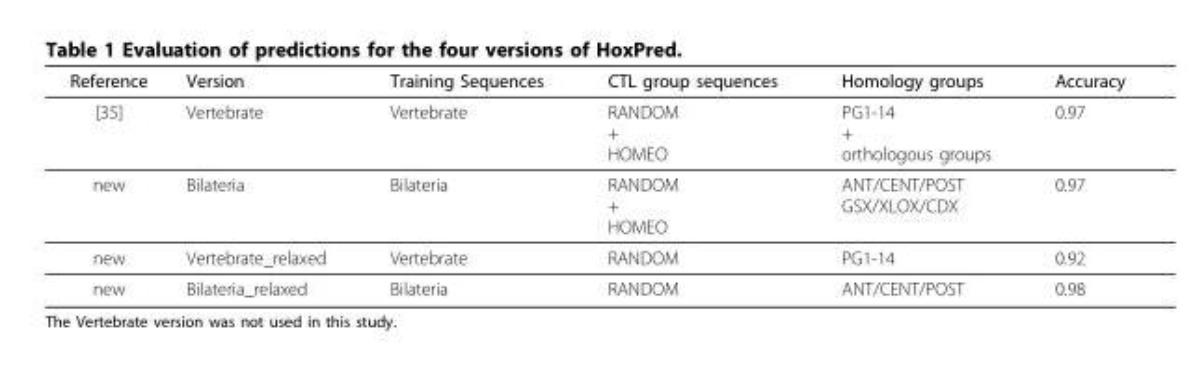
<table><thead><tr><td>Reference</td><td>Version</td><td>Training Sequences</td><td>CTL group sequences</td><td>Homology groups</td><td>Accuracy</td></tr></thead><tbody><tr><td>[35]</td><td>Vertebrate</td><td>Vertebrate</td><td>RANDOM + HOMEO</td><td>PG1-14 + orthologous groups</td><td>0.97</td></tr><tr><td>new</td><td>Bilateria</td><td>Bilateria</td><td>RANDOM + HOMEO</td><td>ANT/CENT/POST GSX/XLOX/CDX</td><td>0.97</td></tr><tr><td>new</td><td>Vertebrate_relaxed</td><td>Vertebrate</td><td>RANDOM</td><td>PG1-14</td><td>0.92</td></tr><tr><td>new</td><td>Bilateria_relaxed</td><td>Bilateria</td><td>RANDOM</td><td>ANT/CENT/POST</td><td>0.98</td></tr></tbody></table>